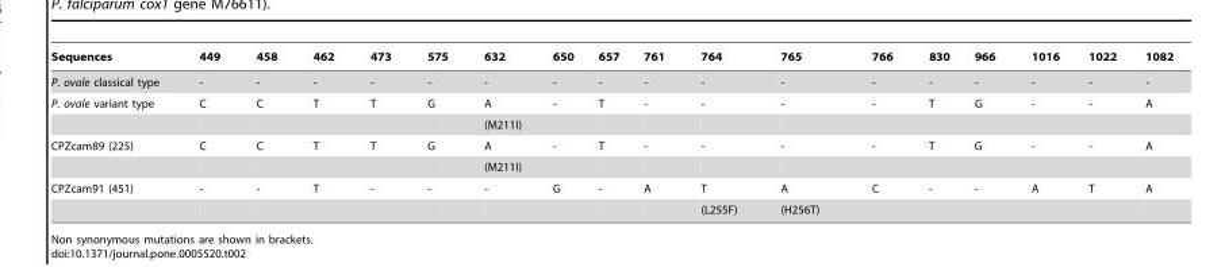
<table><thead><tr><td>Sequences</td><td>449</td><td>458</td><td>462</td><td>473</td><td>575</td><td>632</td><td>650</td><td>657</td><td>761</td><td>764</td><td>765</td><td>766</td><td>830</td><td>966</td><td>1016</td><td>1022</td><td>1082</td></tr></thead><tbody><tr><td>P. ovale classical type</td><td>-</td><td>-</td><td>-</td><td>-</td><td>-</td><td>-</td><td>-</td><td>-</td><td>-</td><td>-</td><td>-</td><td>-</td><td>-</td><td>-</td><td>-</td><td>-</td><td>-</td></tr><tr><td rowspan="2">P. ovale variant type</td><td>C</td><td>C</td><td>T</td><td>T</td><td>G</td><td>A</td><td>-</td><td>T</td><td>-</td><td>-</td><td>-</td><td>-</td><td>T</td><td>G</td><td>-</td><td>-</td><td>A</td></tr><tr><td></td><td></td><td></td><td></td><td></td><td>(M211I)</td><td></td><td></td><td></td><td></td><td></td><td></td><td></td><td></td><td></td><td></td><td></td></tr><tr><td rowspan="2">CPZcam89 (225)</td><td>C</td><td>C</td><td>T</td><td>T</td><td>G</td><td>A</td><td>-</td><td>T</td><td>-</td><td>-</td><td>-</td><td>-</td><td>T</td><td>G</td><td>-</td><td>-</td><td>A</td></tr><tr><td></td><td></td><td></td><td></td><td></td><td>(M211I)</td><td></td><td></td><td></td><td></td><td></td><td></td><td></td><td></td><td></td><td></td><td></td></tr><tr><td rowspan="2">CPZcam91 (451)</td><td>-</td><td>-</td><td>T</td><td>-</td><td>-</td><td>-</td><td>G</td><td>-</td><td>A</td><td>T</td><td>A</td><td>C</td><td>-</td><td>-</td><td>A</td><td>T</td><td>A</td></tr><tr><td></td><td></td><td></td><td></td><td></td><td></td><td></td><td></td><td></td><td>(L255F)</td><td>(H256T)</td><td></td><td></td><td></td><td></td><td></td><td></td></tr></tbody></table>